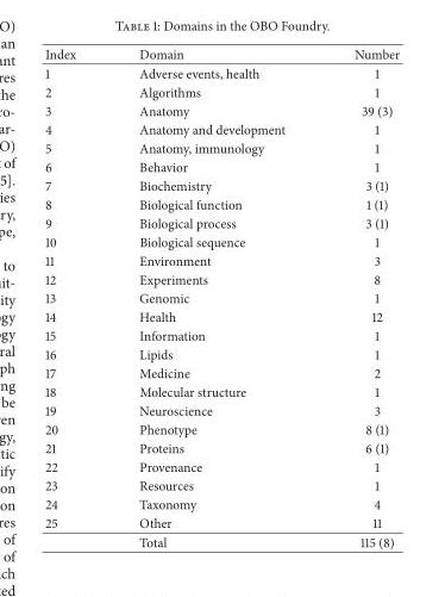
<table><thead><tr><td>Index</td><td>Domain</td><td>Number</td></tr></thead><tbody><tr><td>1</td><td>Adverse events, health</td><td>1</td></tr><tr><td>2</td><td>Algorithms</td><td>1</td></tr><tr><td>3</td><td>Anatomy</td><td>39 (3)</td></tr><tr><td>4</td><td>Anatomy and development</td><td>1</td></tr><tr><td>5</td><td>Anatomy, immunology</td><td>1</td></tr><tr><td>6</td><td>Behavior</td><td>1</td></tr><tr><td>7</td><td>Biochemistry</td><td>3 (1)</td></tr><tr><td>8</td><td>Biological function</td><td>1 (1)</td></tr><tr><td>9</td><td>Biological process</td><td>3 (1)</td></tr><tr><td>10</td><td>Biological sequence</td><td>1</td></tr><tr><td>11</td><td>Environment</td><td>3</td></tr><tr><td>12</td><td>Experiments</td><td>8</td></tr><tr><td>13</td><td>Genomic</td><td>1</td></tr><tr><td>14</td><td>Health</td><td>12</td></tr><tr><td>15</td><td>Information</td><td>1</td></tr><tr><td>16</td><td>Lipids</td><td>1</td></tr><tr><td>17</td><td>Medicine</td><td>2</td></tr><tr><td>18</td><td>Molecular structure</td><td>1</td></tr><tr><td>19</td><td>Neuroscience</td><td>3</td></tr><tr><td>20</td><td>Phenotype</td><td>8 (1)</td></tr><tr><td>21</td><td>Proteins</td><td>6 (1)</td></tr><tr><td>22</td><td>Provenance</td><td>1</td></tr><tr><td>23</td><td>Resources</td><td>1</td></tr><tr><td>24</td><td>Taxonomy</td><td>4</td></tr><tr><td rowspan="2">25</td><td>Other</td><td>11</td></tr><tr><td>Total</td><td>115 (8)</td></tr></tbody></table>